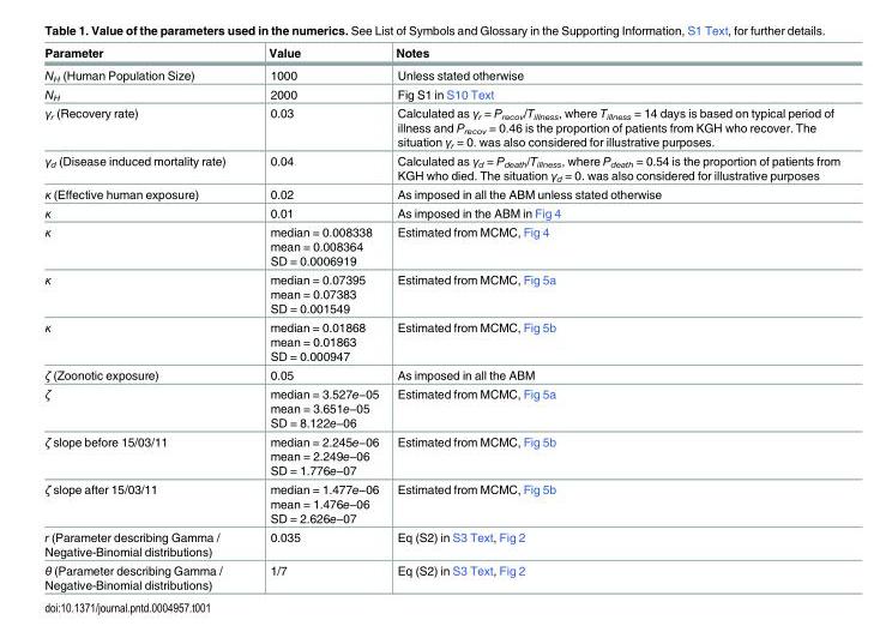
<table><thead><tr><td>Parameter</td><td>Value</td><td>Notes</td></tr></thead><tbody><tr><td>N<sub>H</sub> (Human Population Size)</td><td>1000</td><td>Unless stated otherwise</td></tr><tr><td>N<sub>H</sub></td><td>2000</td><td>Fig S1 in S10 Text</td></tr><tr><td>γ<sub>r</sub> (Recovery rate)</td><td>0.03</td><td>Calculated as γ<sub>r</sub> = P<sub>recov</sub>/T<sub>illness</sub>, where T<sub>illness</sub> = 14 days is based on typical period of illness and P<sub>recov</sub> = 0.46 is the proportion of patients from KGH who recover. The situation γ<sub>r</sub> = 0. was also considered for illustrative purposes.</td></tr><tr><td>γ<sub>d</sub> (Disease induced mortality rate)</td><td>0.04</td><td>Calculated as γ<sub>d</sub> = P<sub>death</sub>/T<sub>illness</sub>, where P<sub>death</sub> = 0.54 is the proportion of patients from KGH who died. The situation γ<sub>d</sub> = 0. was also considered for illustrative purposes</td></tr><tr><td>κ (Effective human exposure)</td><td>0.02</td><td>As imposed in all the ABM unless stated otherwise</td></tr><tr><td>κ</td><td>0.01</td><td>As imposed in the ABM in Fig 4</td></tr><tr><td>κ</td><td>median = 0.008338 mean = 0.008364 SD = 0.0006919</td><td>Estimated from MCMC, Fig 4</td></tr><tr><td>κ</td><td>median = 0.07395 mean = 0.07383 SD = 0.001549</td><td>Estimated from MCMC, Fig 5a</td></tr><tr><td>κ</td><td>median = 0.01868 mean = 0.01863 SD = 0.000947</td><td>Estimated from MCMC, Fig 5b</td></tr><tr><td>ζ (Zoonotic exposure)</td><td>0.05</td><td>As imposed in all the ABM</td></tr><tr><td>ζ</td><td>median = 3.527e−05 mean = 3.651e−05 SD = 8.122e−06</td><td>Estimated from MCMC, Fig 5a</td></tr><tr><td>ζ slope before 15/03/11</td><td>median = 2.245e−06 mean = 2.249e−06 SD = 1.776e−07</td><td>Estimated from MCMC, Fig 5b</td></tr><tr><td>ζ slope after 15/03/11</td><td>median = 1.477e−06 mean = 1.476e−06 SD = 2.626e−07</td><td>Estimated from MCMC, Fig 5b</td></tr><tr><td>r (Parameter describing Gamma / Negative-Binomial distributions)</td><td>0.035</td><td>Eq (S2) in S3 Text, Fig 2</td></tr><tr><td>θ (Parameter describing Gamma / Negative-Binomial distributions)</td><td>1/7</td><td>Eq (S2) in S3 Text, Fig 2</td></tr></tbody></table>